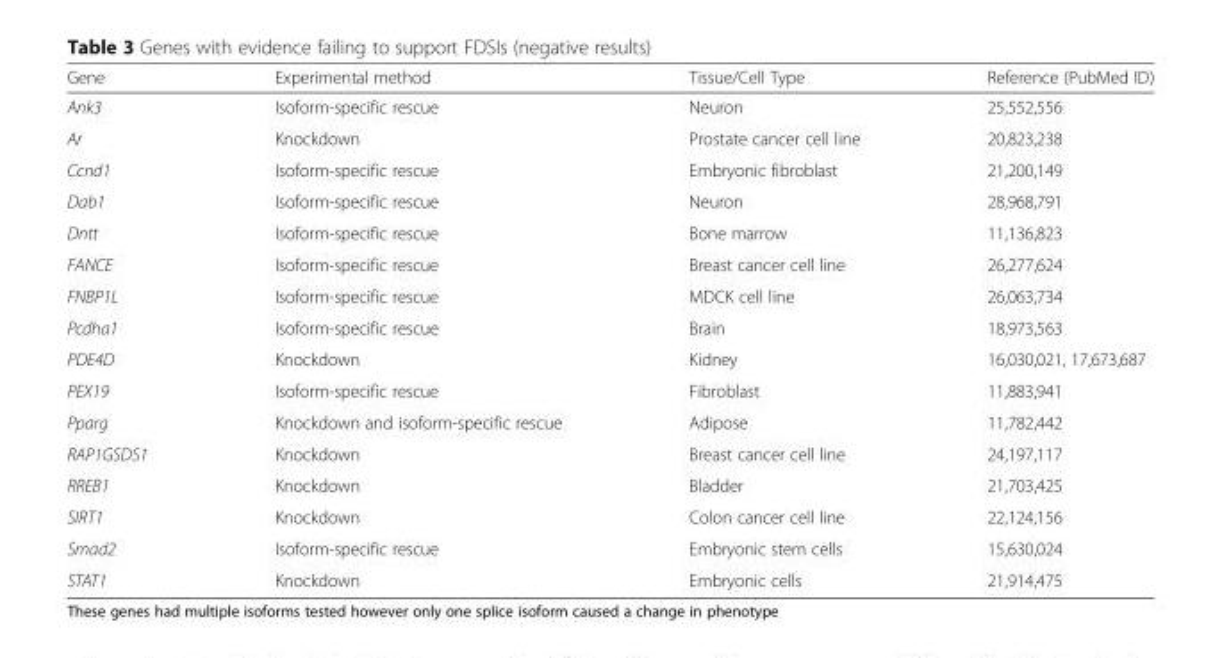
<table><thead><tr><td>Gene</td><td>Experimental method</td><td>Tissue/Cell Type</td><td>Reference (PubMed ID)</td></tr></thead><tbody><tr><td>Ank3</td><td>Isoform-specific rescue</td><td>Neuron</td><td>25,552,556</td></tr><tr><td>Ar</td><td>Knockdown</td><td>Prostate cancer cell line</td><td>20,823,238</td></tr><tr><td>Ccnd1</td><td>Isoform-specific rescue</td><td>Embryonic fibroblast</td><td>21,200,149</td></tr><tr><td>Dab1</td><td>Isoform-specific rescue</td><td>Neuron</td><td>28,968,791</td></tr><tr><td>Dntt</td><td>Isoform-specific rescue</td><td>Bone marrow</td><td>11,136,823</td></tr><tr><td>FANCE</td><td>Isoform-specific rescue</td><td>Breast cancer cell line</td><td>26,277,624</td></tr><tr><td>FNBP1L</td><td>Isoform-specific rescue</td><td>MDCK cell line</td><td>26,063,734</td></tr><tr><td>Pcdha1</td><td>Isoform-specific rescue</td><td>Brain</td><td>18,973,563</td></tr><tr><td>PDE4D</td><td>Knockdown</td><td>Kidney</td><td>16,030,021, 17,673,687</td></tr><tr><td>PEX19</td><td>Isoform-specific rescue</td><td>Fibroblast</td><td>11,883,941</td></tr><tr><td>Pparg</td><td>Knockdown and isoform-specific rescue</td><td>Adipose</td><td>11,782,442</td></tr><tr><td>RAP1GSDS1</td><td>Knockdown</td><td>Breast cancer cell line</td><td>24,197,117</td></tr><tr><td>RREB1</td><td>Knockdown</td><td>Bladder</td><td>21,703,425</td></tr><tr><td>SIRT1</td><td>Knockdown</td><td>Colon cancer cell line</td><td>22,124,156</td></tr><tr><td>Smad2</td><td>Isoform-specific rescue</td><td>Embryonic stem cells</td><td>15,630,024</td></tr><tr><td>STAT1</td><td>Knockdown</td><td>Embryonic cells</td><td>21,914,475</td></tr></tbody></table>